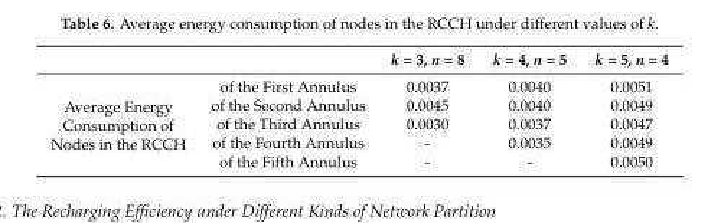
<table><thead><tr><td></td><td></td><td>k = 3, n = 8</td><td>k = 4, n = 5</td><td>k = 5, n = 4</td></tr></thead><tbody><tr><td rowspan="5">Average Energy Consumption of Nodes in the RCCH</td><td>of the First Annulus</td><td>0.0037</td><td>0.0040</td><td>0.0051</td></tr><tr><td>of the Second Annulus</td><td>0.0045</td><td>0.0040</td><td>0.0049</td></tr><tr><td>of the Third Annulus</td><td>0.0030</td><td>0.0037</td><td>0.0047</td></tr><tr><td>of the Fourth Annulus</td><td>-</td><td>0.0035</td><td>0.0049</td></tr><tr><td>of the Fifth Annulus</td><td>-</td><td>-</td><td>0.0050</td></tr></tbody></table>